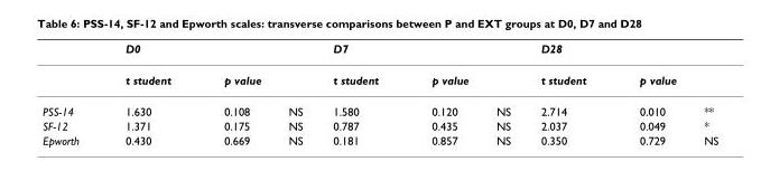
<table><thead><tr><td></td><td>D0</td><td></td><td></td><td>D7</td><td></td><td></td><td>D28</td><td></td><td></td></tr></thead><tbody><tr><td></td><td>t student</td><td colspan="2">p value</td><td>t student</td><td colspan="2">p value</td><td>t student</td><td colspan="2">p value</td></tr><tr><td>PSS-14</td><td>1.630</td><td>0.108</td><td>NS</td><td>1.580</td><td>0.120</td><td>NS</td><td>2.714</td><td>0.010</td><td>**</td></tr><tr><td>SF-12</td><td>1.371</td><td>0.175</td><td>NS</td><td>0.787</td><td>0.435</td><td>NS</td><td>2.037</td><td>0.049</td><td>*</td></tr><tr><td>Epworth</td><td>0.430</td><td>0.669</td><td>NS</td><td>0.181</td><td>0.857</td><td>NS</td><td>0.350</td><td>0.729</td><td>NS</td></tr></tbody></table>